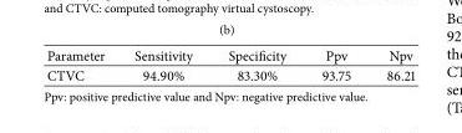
<table><thead><tr><td>Parameter</td><td>Sensitivity</td><td>Specificity</td><td>Ppv</td><td>Npv</td></tr></thead><tbody><tr><td>CTVC</td><td>94.90%</td><td>83.30%</td><td>93.75</td><td>86.21</td></tr></tbody></table>